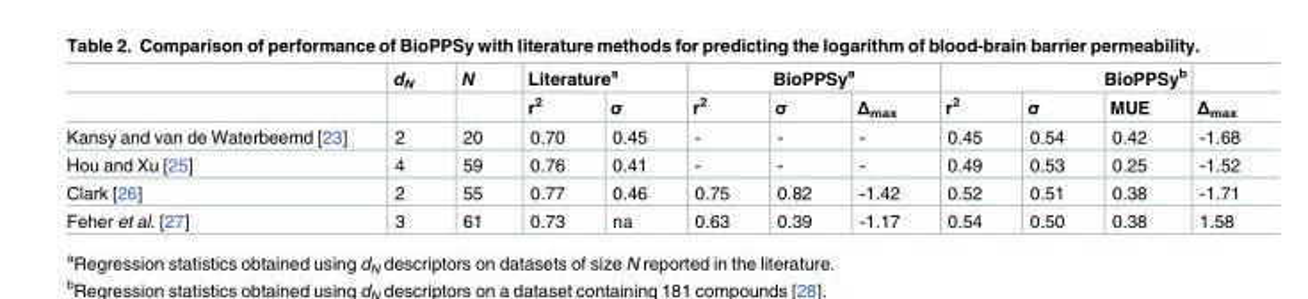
<table><thead><tr><td rowspan="2"></td><td rowspan="2">d<sub>N</sub></td><td rowspan="2">N</td><td colspan="2">Literature<sup>a</sup></td><td colspan="3">BioPPSy<sup>a</sup></td><td colspan="3">BioPPSy<sup>b</sup></td><td rowspan="2">Δ<sub>max</sub></td></tr><tr><td>r<sup>2</sup></td><td>σ</td><td>r<sup>2</sup></td><td>σ</td><td>Δ<sub>max</sub></td><td>r<sup>2</sup></td><td>σ</td><td>MUE</td></tr></thead><tbody><tr><td>Kansy and van de Waterbeemd [23]</td><td>2</td><td>20</td><td>0.70</td><td>0.45</td><td>-</td><td>-</td><td>-</td><td>0.45</td><td>0.54</td><td>0.42</td><td>-1.68</td></tr><tr><td>Hou and Xu [25]</td><td>4</td><td>59</td><td>0.76</td><td>0.41</td><td>-</td><td>-</td><td>-</td><td>0.49</td><td>0.53</td><td>0.25</td><td>-1.52</td></tr><tr><td>Clark [26]</td><td>2</td><td>55</td><td>0.77</td><td>0.46</td><td>0.75</td><td>0.82</td><td>-1.42</td><td>0.52</td><td>0.51</td><td>0.38</td><td>-1.71</td></tr><tr><td>Feher et al. [27]</td><td>3</td><td>61</td><td>0.73</td><td>na</td><td>0.63</td><td>0.39</td><td>-1.17</td><td>0.54</td><td>0.50</td><td>0.38</td><td>1.58</td></tr></tbody></table>